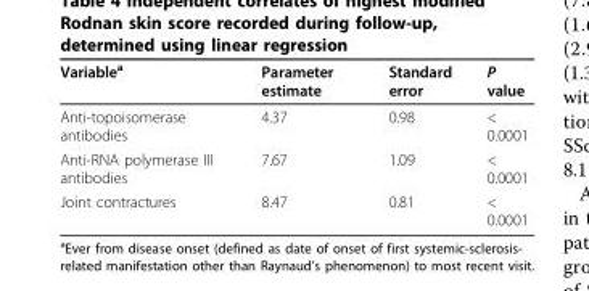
<table><thead><tr><td>Variable<sup>a</sup></td><td>Parameter estimate</td><td>Standard error</td><td>P value</td></tr></thead><tbody><tr><td>Anti-topoisomerase antibodies</td><td>4.37</td><td>0.98</td><td>&lt; 0.0001</td></tr><tr><td>Anti-RNA polymerase III antibodies</td><td>7.67</td><td>1.09</td><td>&lt; 0.0001</td></tr><tr><td>Joint contractures</td><td>8.47</td><td>0.81</td><td>&lt; 0.0001</td></tr></tbody></table>